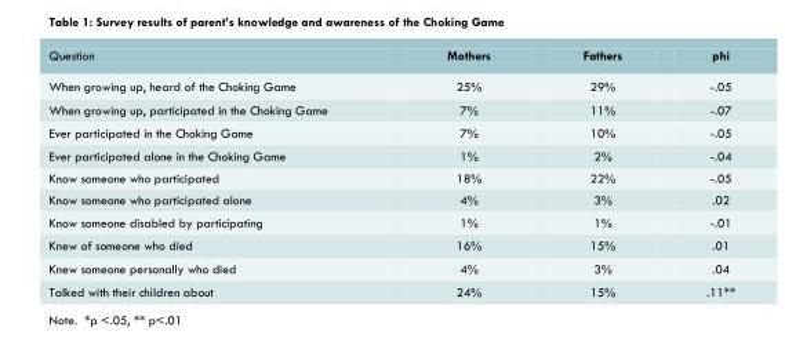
<table><thead><tr><td>Question</td><td>Mothers</td><td>Fathers</td><td>phi</td></tr></thead><tbody><tr><td>When growing up, heard of the Choking Game</td><td>25%</td><td>29%</td><td>-.05</td></tr><tr><td>When growing up, participated in the Choking Game</td><td>7%</td><td>11%</td><td>-.07</td></tr><tr><td>Ever participated in the Choking Game</td><td>7%</td><td>10%</td><td>-.05</td></tr><tr><td>Ever participated alone in the Choking Game</td><td>1%</td><td>2%</td><td>-.04</td></tr><tr><td>Know someone who participated</td><td>18%</td><td>22%</td><td>-.05</td></tr><tr><td>Know someone who participated alone</td><td>4%</td><td>3%</td><td>.02</td></tr><tr><td>Know someone disabled by participating</td><td>1%</td><td>1%</td><td>-.01</td></tr><tr><td>Knew of someone who died</td><td>16%</td><td>15%</td><td>.01</td></tr><tr><td>Knew someone personally who died</td><td>4%</td><td>3%</td><td>.04</td></tr><tr><td>Talked with their children about</td><td>24%</td><td>15%</td><td>.11**</td></tr></tbody></table>